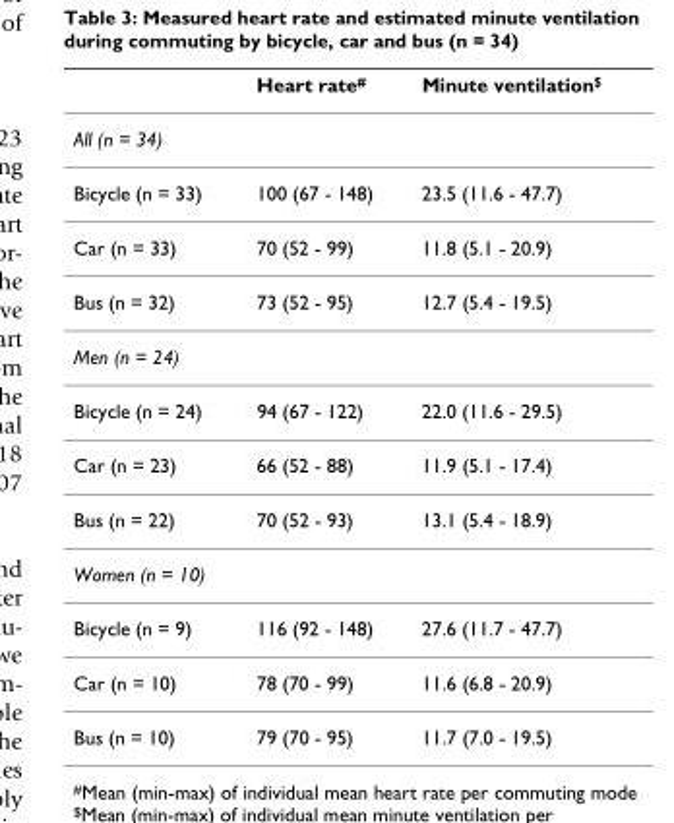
<table><thead><tr><td></td><td>Heart rate<sup>#</sup></td><td>Minute ventilation<sup>$</sup></td></tr></thead><tbody><tr><td colspan="3">All (n = 34)</td></tr><tr><td>Bicycle (n = 33)</td><td>100 (67 - 148)</td><td>23.5 (11.6 - 47.7)</td></tr><tr><td>Car (n = 33)</td><td>70 (52 - 99)</td><td>11.8 (5.1 - 20.9)</td></tr><tr><td>Bus (n = 32)</td><td>73 (52 - 95)</td><td>12.7 (5.4 - 19.5)</td></tr><tr><td colspan="3">Men (n = 24)</td></tr><tr><td>Bicycle (n = 24)</td><td>94 (67 - 122)</td><td>22.0 (11.6 - 29.5)</td></tr><tr><td>Car (n = 23)</td><td>66 (52 - 88)</td><td>11.9 (5.1 - 17.4)</td></tr><tr><td>Bus (n = 22)</td><td>70 (52 - 93)</td><td>13.1 (5.4 - 18.9)</td></tr><tr><td colspan="3">Women (n = 10)</td></tr><tr><td>Bicycle (n = 9)</td><td>116 (92 - 148)</td><td>27.6 (11.7 - 47.7)</td></tr><tr><td>Car (n = 10)</td><td>78 (70 - 99)</td><td>11.6 (6.8 - 20.9)</td></tr><tr><td>Bus (n = 10)</td><td>79 (70 - 95)</td><td>11.7 (7.0 - 19.5)</td></tr></tbody></table>